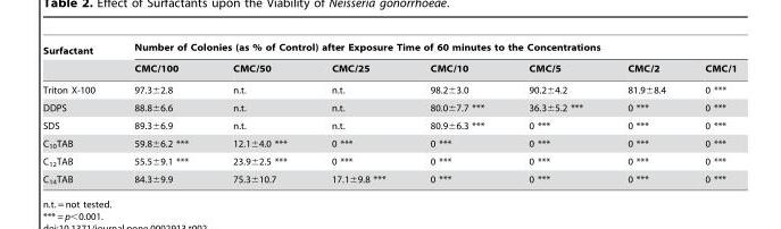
<table><thead><tr><td rowspan="2">Surfactant</td><td colspan="7">Number of Colonies (as % of Control) after Exposure Time of 60 minutes to the Concentrations</td></tr><tr><td>CMC/100</td><td>CMC/50</td><td>CMC/25</td><td>CMC/10</td><td>CMC/5</td><td>CMC/2</td><td>CMC/1</td></tr></thead><tbody><tr><td>Triton X-100</td><td>97.3±2.8</td><td>n.t.</td><td>n.t.</td><td>98.2±3.0</td><td>90.2±4.2</td><td>81.9±8.4</td><td>0 ***</td></tr><tr><td>DDPS</td><td>88.8±6.6</td><td>n.t.</td><td>n.t.</td><td>80.0±7.7 ***</td><td>36.3±5.2 ***</td><td>0 ***</td><td>0 ***</td></tr><tr><td>SDS</td><td>89.3±6.9</td><td>n.t.</td><td>n.t.</td><td>80.9±6.3 ***</td><td>0 ***</td><td>0 ***</td><td>0 ***</td></tr><tr><td>C<sub>10</sub>TAB</td><td>59.8±6.2 ***</td><td>12.1±4.0 ***</td><td>0 ***</td><td>0 ***</td><td>0 ***</td><td>0 ***</td><td>0 ***</td></tr><tr><td>C<sub>12</sub>TAB</td><td>55.5±9.1 ***</td><td>23.9±2.5 ***</td><td>0 ***</td><td>0 ***</td><td>0 ***</td><td>0 ***</td><td>0 ***</td></tr><tr><td>C<sub>14</sub>TAB</td><td>84.3±9.9</td><td>75.3±10.7</td><td>17.1±9.8 ***</td><td>0 ***</td><td>0 ***</td><td>0 ***</td><td>0 ***</td></tr></tbody></table>